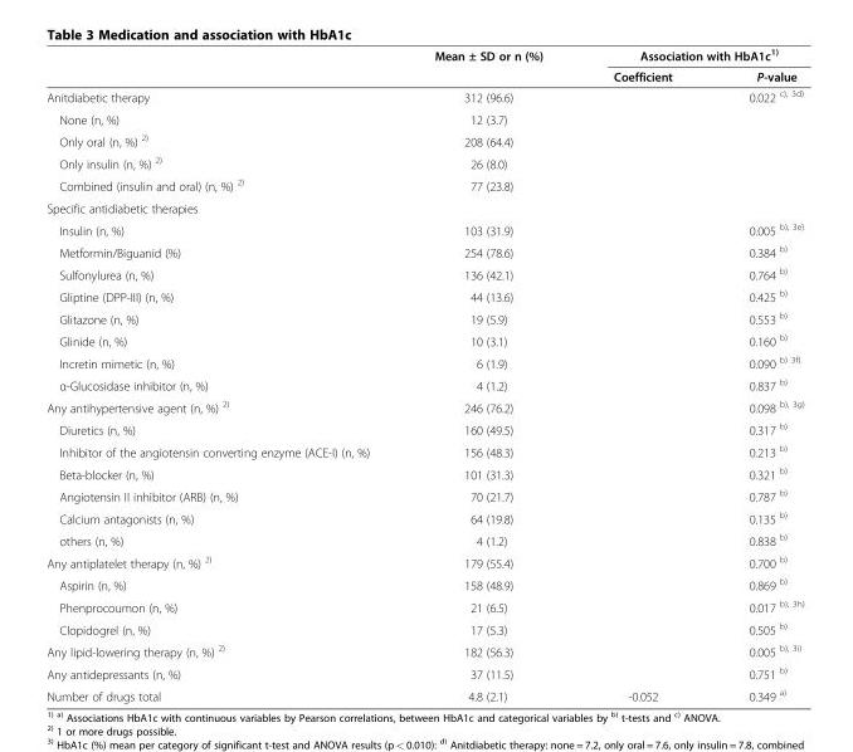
<table><thead><tr><td rowspan="2"></td><td rowspan="2">Mean ± SD or n (%)</td><td colspan="2">Association with HbA1c<sup>1)</sup></td></tr><tr><td>Coefficient</td><td>P-value</td></tr></thead><tbody><tr><td>Anitdiabetic therapy</td><td>312 (96.6)</td><td></td><td>0.022 <sup>c), 3d)</sup></td></tr><tr><td>None (n, %)</td><td>12 (3.7)</td><td></td><td></td></tr><tr><td>Only oral (n, %) <sup>2)</sup></td><td>208 (64.4)</td><td></td><td></td></tr><tr><td>Only insulin (n, %) <sup>2)</sup></td><td>26 (8.0)</td><td></td><td></td></tr><tr><td>Combined (insulin and oral) (n, %) <sup>2)</sup></td><td>77 (23.8)</td><td></td><td></td></tr><tr><td colspan="4">Specific antidiabetic therapies</td></tr><tr><td>Insulin (n, %)</td><td>103 (31.9)</td><td></td><td>0.005 <sup>b), 3e)</sup></td></tr><tr><td>Metformin/Biguanid (%)</td><td>254 (78.6)</td><td></td><td>0.384 <sup>b)</sup></td></tr><tr><td>Sulfonylurea (n, %)</td><td>136 (42.1)</td><td></td><td>0.764 <sup>b)</sup></td></tr><tr><td>Gliptine (DPP-III) (n, %)</td><td>44 (13.6)</td><td></td><td>0.425 <sup>b)</sup></td></tr><tr><td>Glitazone (n, %)</td><td>19 (5.9)</td><td></td><td>0.553 <sup>b)</sup></td></tr><tr><td>Glinide (n, %)</td><td>10 (3.1)</td><td></td><td>0.160 <sup>b)</sup></td></tr><tr><td>Incretin mimetic (n, %)</td><td>6 (1.9)</td><td></td><td>0.090 <sup>b) 3f)</sup></td></tr><tr><td>α-Glucosidase inhibitor (n, %)</td><td>4 (1.2)</td><td></td><td>0.837 <sup>b)</sup></td></tr><tr><td>Any antihypertensive agent (n, %) <sup>2)</sup></td><td>246 (76.2)</td><td></td><td>0.098 <sup>b), 3g)</sup></td></tr><tr><td>Diuretics (n, %)</td><td>160 (49.5)</td><td></td><td>0.317 <sup>b)</sup></td></tr><tr><td>Inhibitor of the angiotensin converting enzyme (ACE-I) (n, %)</td><td>156 (48.3)</td><td></td><td>0.213 <sup>b)</sup></td></tr><tr><td>Beta-blocker (n, %)</td><td>101 (31.3)</td><td></td><td>0.321 <sup>b)</sup></td></tr><tr><td>Angiotensin II inhibitor (ARB) (n, %)</td><td>70 (21.7)</td><td></td><td>0.787 <sup>b)</sup></td></tr><tr><td>Calcium antagonists (n, %)</td><td>64 (19.8)</td><td></td><td>0.135 <sup>b)</sup></td></tr><tr><td>others (n, %)</td><td>4 (1.2)</td><td></td><td>0.838 <sup>b)</sup></td></tr><tr><td>Any antiplatelet therapy (n, %) <sup>2)</sup></td><td>179 (55.4)</td><td></td><td>0.700 <sup>b)</sup></td></tr><tr><td>Aspirin (n, %)</td><td>158 (48.9)</td><td></td><td>0.869 <sup>b)</sup></td></tr><tr><td>Phenprocoumon (n, %)</td><td>21 (6.5)</td><td></td><td>0.017 <sup>b), 3h)</sup></td></tr><tr><td>Clopidogrel (n, %)</td><td>17 (5.3)</td><td></td><td>0.505 <sup>b)</sup></td></tr><tr><td>Any lipid-lowering therapy (n, %) <sup>2)</sup></td><td>182 (56.3)</td><td></td><td>0.005 <sup>b), 3i)</sup></td></tr><tr><td>Any antidepressants (n, %)</td><td>37 (11.5)</td><td></td><td>0.751 <sup>b)</sup></td></tr><tr><td>Number of drugs total</td><td>4.8 (2.1)</td><td>-0.052</td><td>0.349 <sup>a)</sup></td></tr></tbody></table>